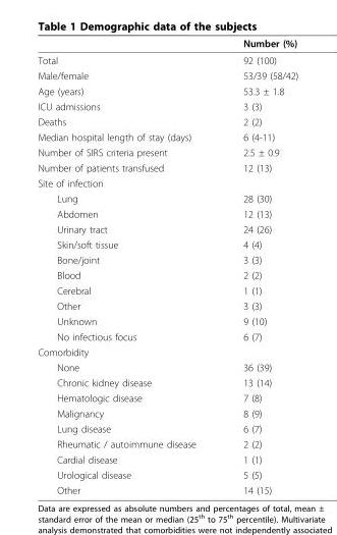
<table><thead><tr><td></td><td>Number (%)</td></tr></thead><tbody><tr><td>Total</td><td>92 (100)</td></tr><tr><td>Male/female</td><td>53/39 (58/42)</td></tr><tr><td>Age (years)</td><td>53.3 ± 1.8</td></tr><tr><td>ICU admissions</td><td>3 (3)</td></tr><tr><td>Deaths</td><td>2 (2)</td></tr><tr><td>Median hospital length of stay (days)</td><td>6 (4-11)</td></tr><tr><td>Number of SIRS criteria present</td><td>2.5 ± 0.9</td></tr><tr><td>Number of patients transfused</td><td>12 (13)</td></tr><tr><td colspan="2">Site of infection</td></tr><tr><td>Lung</td><td>28 (30)</td></tr><tr><td>Abdomen</td><td>12 (13)</td></tr><tr><td>Urinary tract</td><td>24 (26)</td></tr><tr><td>Skin/soft tissue</td><td>4 (4)</td></tr><tr><td>Bone/joint</td><td>3 (3)</td></tr><tr><td>Blood</td><td>2 (2)</td></tr><tr><td>Cerebral</td><td>1 (1)</td></tr><tr><td>Other</td><td>3 (3)</td></tr><tr><td>Unknown</td><td>9 (10)</td></tr><tr><td>No infectious focus</td><td>6 (7)</td></tr><tr><td colspan="2">Comorbidity</td></tr><tr><td>None</td><td>36 (39)</td></tr><tr><td>Chronic kidney disease</td><td>13 (14)</td></tr><tr><td>Hematologic disease</td><td>7 (8)</td></tr><tr><td>Malignancy</td><td>8 (9)</td></tr><tr><td>Lung disease</td><td>6 (7)</td></tr><tr><td>Rheumatic / autoimmune disease</td><td>2 (2)</td></tr><tr><td>Cardial disease</td><td>1 (1)</td></tr><tr><td>Urological disease</td><td>5 (5)</td></tr><tr><td>Other</td><td>14 (15)</td></tr></tbody></table>